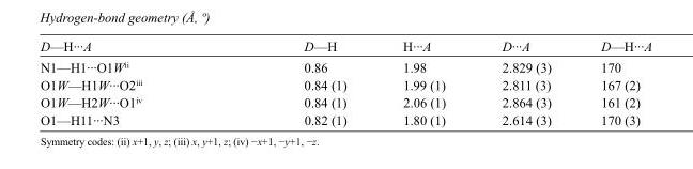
<table><tbody><tr><td>D—H···A</td><td>D—H</td><td>H···A</td><td>D···A</td><td>D—H···A</td></tr><tr><td>N1—H1···O1W<sup>ii</sup></td><td>0.86</td><td>1.98</td><td>2.829 (3)</td><td>170</td></tr><tr><td>O1W—H1W···O2<sup>iii</sup></td><td>0.84 (1)</td><td>1.99 (1)</td><td>2.811 (3)</td><td>167 (2)</td></tr><tr><td>O1W—H2W···O1<sup>iv</sup></td><td>0.84 (1)</td><td>2.06 (1)</td><td>2.864 (3)</td><td>161 (2)</td></tr><tr><td>O1—H11···N3</td><td>0.82 (1)</td><td>1.80 (1)</td><td>2.614 (3)</td><td>170 (3)</td></tr></tbody></table>